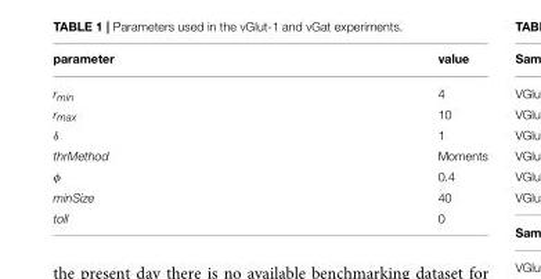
<table><thead><tr><td>parameter</td><td>value</td></tr></thead><tbody><tr><td>r<sub>min</sub></td><td>4</td></tr><tr><td>r<sub>max</sub></td><td>10</td></tr><tr><td>δ</td><td>1</td></tr><tr><td>thrMethod</td><td>Moments</td></tr><tr><td>φ</td><td>0.4</td></tr><tr><td>minSize</td><td>40</td></tr><tr><td>toll</td><td>0</td></tr></tbody></table>